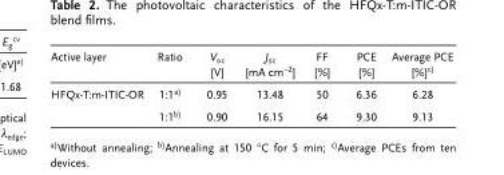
<table><thead><tr><td>Active layer</td><td>Ratio</td><td>V<sub>oc</sub> [V]</td><td>J<sub>sc</sub> [mA cm<sup>−2</sup>]</td><td>FF [%]</td><td>PCE [%]</td><td>Average PCE [%]c)</td></tr></thead><tbody><tr><td rowspan="2">HFQx-T:m-ITIC-OR</td><td>1:1a)</td><td>0.95</td><td>13.48</td><td>50</td><td>6.36</td><td>6.28</td></tr><tr><td>1:1b)</td><td>0.90</td><td>16.15</td><td>64</td><td>9.30</td><td>9.13</td></tr></tbody></table>